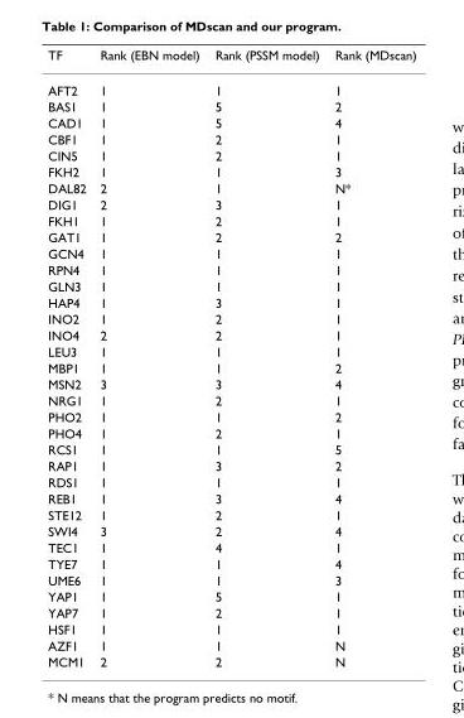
<table><thead><tr><td>TF</td><td>Rank (EBN model)</td><td>Rank (PSSM model)</td><td>Rank (MDscan)</td></tr></thead><tbody><tr><td>AFT2</td><td>1</td><td>1</td><td>1</td></tr><tr><td>BAS1</td><td>1</td><td>5</td><td>2</td></tr><tr><td>CAD1</td><td>1</td><td>5</td><td>4</td></tr><tr><td>CBF1</td><td>1</td><td>2</td><td>1</td></tr><tr><td>CIN5</td><td>1</td><td>2</td><td>1</td></tr><tr><td>FKH2</td><td>1</td><td>1</td><td>3</td></tr><tr><td>DAL82</td><td>2</td><td>1</td><td>N*</td></tr><tr><td>DIG1</td><td>2</td><td>3</td><td>1</td></tr><tr><td>FKH1</td><td>1</td><td>2</td><td>1</td></tr><tr><td>GAT1</td><td>1</td><td>2</td><td>2</td></tr><tr><td>GCN4</td><td>1</td><td>1</td><td>1</td></tr><tr><td>RPN4</td><td>1</td><td>1</td><td>1</td></tr><tr><td>GLN3</td><td>1</td><td>1</td><td>1</td></tr><tr><td>HAP4</td><td>1</td><td>3</td><td>1</td></tr><tr><td>INO2</td><td>1</td><td>2</td><td>1</td></tr><tr><td>INO4</td><td>2</td><td>2</td><td>1</td></tr><tr><td>LEU3</td><td>1</td><td>1</td><td>1</td></tr><tr><td>MBP1</td><td>1</td><td>1</td><td>2</td></tr><tr><td>MSN2</td><td>3</td><td>3</td><td>4</td></tr><tr><td>NRG1</td><td>1</td><td>2</td><td>1</td></tr><tr><td>PHO2</td><td>1</td><td>1</td><td>2</td></tr><tr><td>PHO4</td><td>1</td><td>2</td><td>1</td></tr><tr><td>RCS1</td><td>1</td><td>1</td><td>5</td></tr><tr><td>RAP1</td><td>1</td><td>3</td><td>2</td></tr><tr><td>RDS1</td><td>1</td><td>1</td><td>1</td></tr><tr><td>REB1</td><td>1</td><td>3</td><td>4</td></tr><tr><td>STE12</td><td>1</td><td>2</td><td>1</td></tr><tr><td>SWI4</td><td>3</td><td>2</td><td>4</td></tr><tr><td>TEC1</td><td>1</td><td>4</td><td>1</td></tr><tr><td>TYE7</td><td>1</td><td>1</td><td>4</td></tr><tr><td>UME6</td><td>1</td><td>1</td><td>3</td></tr><tr><td>YAP1</td><td>1</td><td>5</td><td>1</td></tr><tr><td>YAP7</td><td>1</td><td>2</td><td>1</td></tr><tr><td>HSF1</td><td>1</td><td>1</td><td>1</td></tr><tr><td>AZF1</td><td>1</td><td>1</td><td>N</td></tr><tr><td>MCM1</td><td>2</td><td>2</td><td>N</td></tr></tbody></table>